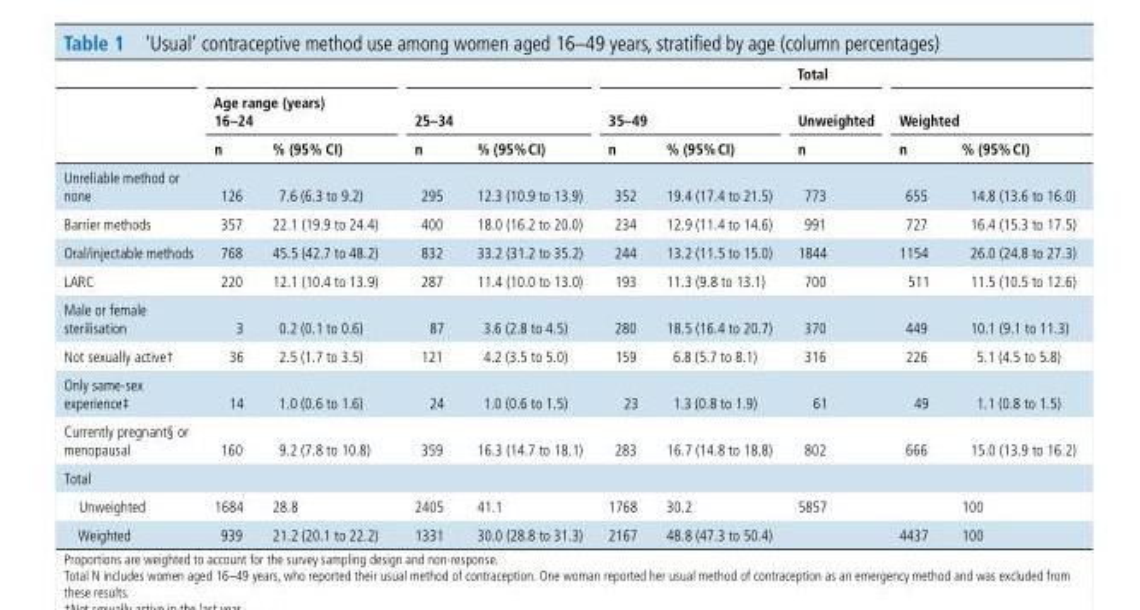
<table><thead><tr><td rowspan="3"></td><td></td><td></td><td></td><td></td><td></td><td></td><td rowspan="3">Total Unweighted n</td><td></td><td></td></tr><tr><td colspan="2">Age range (years) 16–24</td><td colspan="2">25–34</td><td colspan="2">35–49</td><td colspan="2">Weighted</td></tr><tr><td>n</td><td>% (95% CI)</td><td>n</td><td>% (95% CI)</td><td>n</td><td>% (95% CI)</td><td>n</td><td>% (95% CI)</td></tr></thead><tbody><tr><td>Unreliable method or none</td><td>126</td><td>7.6 (6.3 to 9.2)</td><td>295</td><td>12.3 (10.9 to 13.9)</td><td>352</td><td>19.4 (17.4 to 21.5)</td><td>773</td><td>655</td><td>14.8 (13.6 to 16.0)</td></tr><tr><td>Barrier methods</td><td>357</td><td>22.1 (19.9 to 24.4)</td><td>400</td><td>18.0 (16.2 to 20.0)</td><td>234</td><td>12.9 (11.4 to 14.6)</td><td>991</td><td>727</td><td>16.4 (15.3 to 17.5)</td></tr><tr><td>Oral/injectable methods</td><td>768</td><td>45.5 (42.7 to 48.2)</td><td>832</td><td>33.2 (31.2 to 35.2)</td><td>244</td><td>13.2 (11.5 to 15.0)</td><td>1844</td><td>1154</td><td>26.0 (24.8 to 27.3)</td></tr><tr><td>LARC</td><td>220</td><td>12.1 (10.4 to 13.9)</td><td>287</td><td>11.4 (10.0 to 13.0)</td><td>193</td><td>11.3 (9.8 to 13.1)</td><td>700</td><td>511</td><td>11.5 (10.5 to 12.6)</td></tr><tr><td>Male or female sterilisation</td><td>3</td><td>0.2 (0.1 to 0.6)</td><td>87</td><td>3.6 (2.8 to 4.5)</td><td>280</td><td>18.5 (16.4 to 20.7)</td><td>370</td><td>449</td><td>10.1 (9.1 to 11.3)</td></tr><tr><td>Not sexually active†</td><td>36</td><td>2.5 (1.7 to 3.5)</td><td>121</td><td>4.2 (3.5 to 5.0)</td><td>159</td><td>6.8 (5.7 to 8.1)</td><td>316</td><td>226</td><td>5.1 (4.5 to 5.8)</td></tr><tr><td>Only same-sex experience‡</td><td>14</td><td>1.0 (0.6 to 1.6)</td><td>24</td><td>1.0 (0.6 to 1.5)</td><td>23</td><td>1.3 (0.8 to 1.9)</td><td>61</td><td>49</td><td>1.1 (0.8 to 1.5)</td></tr><tr><td>Currently pregnant§ or menopausal</td><td>160</td><td>9.2 (7.8 to 10.8)</td><td>359</td><td>16.3 (14.7 to 18.1)</td><td>283</td><td>16.7 (14.8 to 18.8)</td><td>802</td><td>666</td><td>15.0 (13.9 to 16.2)</td></tr><tr><td colspan="10">Total</td></tr><tr><td>Unweighted</td><td>1684</td><td>28.8</td><td>2405</td><td>41.1</td><td>1768</td><td>30.2</td><td>5857</td><td></td><td>100</td></tr><tr><td>Weighted</td><td>939</td><td>21.2 (20.1 to 22.2)</td><td>1331</td><td>30.0 (28.8 to 31.3)</td><td>2167</td><td>48.8 (47.3 to 50.4)</td><td></td><td>4437</td><td>100</td></tr></tbody></table>